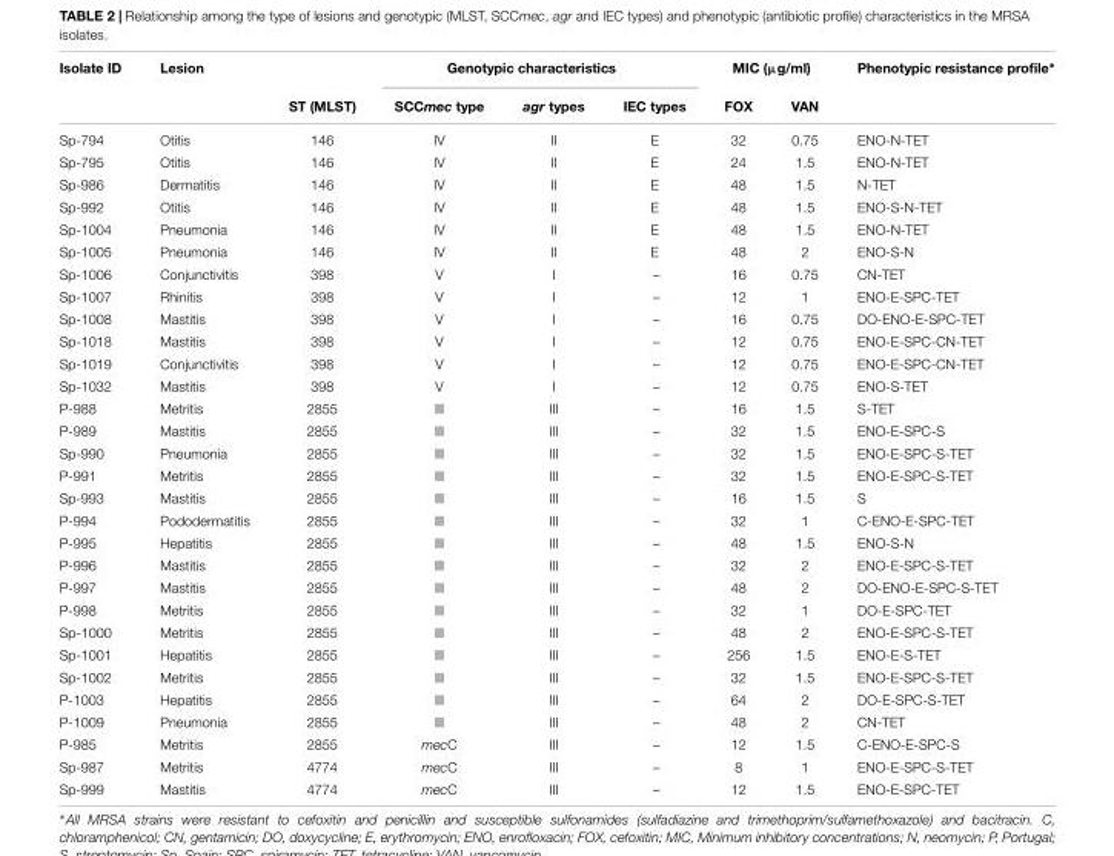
<table><thead><tr><td rowspan="2">Isolate ID</td><td rowspan="2">Lesion</td><td rowspan="2">ST (MLST)</td><td colspan="3">Genotypic characteristics</td><td colspan="2">MIC (µg/ml)</td><td rowspan="2">Phenotypic resistance profile∗</td></tr><tr><td>SCCmec type</td><td>agr types</td><td>IEC types</td><td>FOX</td><td>VAN</td></tr></thead><tbody><tr><td>Sp-794</td><td>Otitis</td><td>146</td><td>IV</td><td>II</td><td>E</td><td>32</td><td>0.75</td><td>ENO-N-TET</td></tr><tr><td>Sp-795</td><td>Otitis</td><td>146</td><td>IV</td><td>II</td><td>E</td><td>24</td><td>1.5</td><td>ENO-N-TET</td></tr><tr><td>Sp-986</td><td>Dermatitis</td><td>146</td><td>IV</td><td>II</td><td>E</td><td>48</td><td>1.5</td><td>N-TET</td></tr><tr><td>Sp-992</td><td>Otitis</td><td>146</td><td>IV</td><td>II</td><td>E</td><td>48</td><td>1.5</td><td>ENO-S-N-TET</td></tr><tr><td>Sp-1004</td><td>Pneumonia</td><td>146</td><td>IV</td><td>II</td><td>E</td><td>48</td><td>1.5</td><td>ENO-N-TET</td></tr><tr><td>Sp-1005</td><td>Pneumonia</td><td>146</td><td>IV</td><td>II</td><td>E</td><td>48</td><td>2</td><td>ENO-S-N</td></tr><tr><td>Sp-1006</td><td>Conjunctivitis</td><td>398</td><td>V</td><td>I</td><td>–</td><td>16</td><td>0.75</td><td>CN-TET</td></tr><tr><td>Sp-1007</td><td>Rhinitis</td><td>398</td><td>V</td><td>I</td><td>–</td><td>12</td><td>1</td><td>ENO-E-SPC-TET</td></tr><tr><td>Sp-1008</td><td>Mastitis</td><td>398</td><td>V</td><td>I</td><td>–</td><td>16</td><td>0.75</td><td>DO-ENO-E-SPC-TET</td></tr><tr><td>Sp-1018</td><td>Mastitis</td><td>398</td><td>V</td><td>I</td><td>–</td><td>12</td><td>0.75</td><td>ENO-E-SPC-CN-TET</td></tr><tr><td>Sp-1019</td><td>Conjunctivitis</td><td>398</td><td>V</td><td>I</td><td>–</td><td>12</td><td>0.75</td><td>ENO-E-SPC-CN-TET</td></tr><tr><td>Sp-1032</td><td>Mastitis</td><td>398</td><td>V</td><td>I</td><td>–</td><td>12</td><td>0.75</td><td>ENO-S-TET</td></tr><tr><td>P-988</td><td>Metritis</td><td>2855</td><td>III</td><td>III</td><td>–</td><td>16</td><td>1.5</td><td>S-TET</td></tr><tr><td>P-989</td><td>Mastitis</td><td>2855</td><td>III</td><td>III</td><td>–</td><td>32</td><td>1.5</td><td>ENO-E-SPC-S</td></tr><tr><td>Sp-990</td><td>Pneumonia</td><td>2855</td><td>III</td><td>III</td><td>–</td><td>32</td><td>1.5</td><td>ENO-E-SPC-S-TET</td></tr><tr><td>P-991</td><td>Metritis</td><td>2855</td><td>III</td><td>III</td><td>–</td><td>32</td><td>1.5</td><td>ENO-E-SPC-S-TET</td></tr><tr><td>Sp-993</td><td>Mastitis</td><td>2855</td><td>III</td><td>III</td><td>–</td><td>16</td><td>1.5</td><td>S</td></tr><tr><td>P-994</td><td>Pododermatitis</td><td>2855</td><td>III</td><td>III</td><td>–</td><td>32</td><td>1</td><td>C-ENO-E-SPC-TET</td></tr><tr><td>P-995</td><td>Hepatitis</td><td>2855</td><td>III</td><td>III</td><td>–</td><td>48</td><td>1.5</td><td>ENO-S-N</td></tr><tr><td>P-996</td><td>Mastitis</td><td>2855</td><td>III</td><td>III</td><td>–</td><td>32</td><td>2</td><td>ENO-E-SPC-S-TET</td></tr><tr><td>P-997</td><td>Mastitis</td><td>2855</td><td>III</td><td>III</td><td>–</td><td>48</td><td>2</td><td>DO-ENO-E-SPC-S-TET</td></tr><tr><td>P-998</td><td>Metritis</td><td>2855</td><td>III</td><td>III</td><td>–</td><td>32</td><td>1</td><td>DO-E-SPC-TET</td></tr><tr><td>Sp-1000</td><td>Metritis</td><td>2855</td><td>III</td><td>III</td><td>–</td><td>48</td><td>2</td><td>ENO-E-SPC-S-TET</td></tr><tr><td>Sp-1001</td><td>Hepatitis</td><td>2855</td><td>III</td><td>III</td><td>–</td><td>256</td><td>1.5</td><td>ENO-E-S-TET</td></tr><tr><td>Sp-1002</td><td>Metritis</td><td>2855</td><td>III</td><td>III</td><td>–</td><td>32</td><td>1.5</td><td>ENO-E-SPC-S-TET</td></tr><tr><td>P-1003</td><td>Hepatitis</td><td>2855</td><td>III</td><td>III</td><td>–</td><td>64</td><td>2</td><td>DO-E-SPC-S-TET</td></tr><tr><td>P-1009</td><td>Pneumonia</td><td>2855</td><td>III</td><td>III</td><td>–</td><td>48</td><td>2</td><td>CN-TET</td></tr><tr><td>P-985</td><td>Metritis</td><td>2855</td><td>mecC</td><td>III</td><td>–</td><td>12</td><td>1.5</td><td>C-ENO-E-SPC-S</td></tr><tr><td>Sp-987</td><td>Metritis</td><td>4774</td><td>mecC</td><td>III</td><td>–</td><td>8</td><td>1</td><td>ENO-E-SPC-S-TET</td></tr><tr><td>Sp-999</td><td>Mastitis</td><td>4774</td><td>mecC</td><td>III</td><td>–</td><td>12</td><td>1.5</td><td>ENO-E-SPC-TET</td></tr></tbody></table>